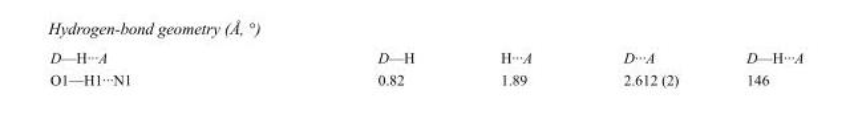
<table><tbody><tr><td>D—H···A</td><td>D—H</td><td>H···A</td><td>D···A</td><td>D—H···A</td></tr><tr><td>O1—H1···N1</td><td>0.82</td><td>1.89</td><td>2.612 (2)</td><td>146</td></tr></tbody></table>